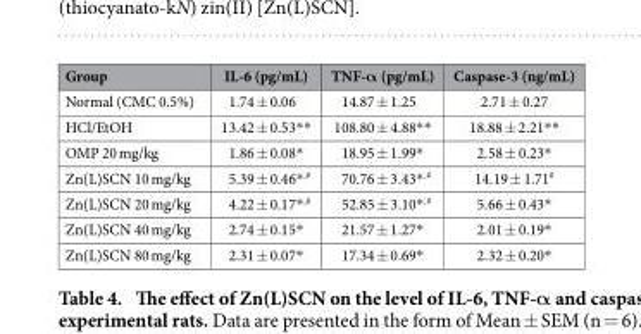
<table><thead><tr><td>Group</td><td>IL-6 (pg/mL)</td><td>TNF-α (pg/mL)</td><td>Caspase-3 (ng/mL)</td></tr></thead><tbody><tr><td>Normal (CMC 0.5%)</td><td>1.74 ± 0.06</td><td>14.87 ± 1.25</td><td>2.71 ± 0.27</td></tr><tr><td>HCl/EtOH</td><td>13.42 ± 0.53* *</td><td>108.80 ± 4.88* *</td><td>18.88 ± 2.21* *</td></tr><tr><td>OMP 20 mg/kg</td><td>1.86 ± 0.08*</td><td>18.95 ± 1.99*</td><td>2.58 ± 0.23*</td></tr><tr><td>Zn(L)SCN 10 mg/kg</td><td>5.39 ± 0.46*, #</td><td>70.76 ± 3.43* ,#</td><td>14.19 ± 1.71#</td></tr><tr><td>Zn(L)SCN 20 mg/kg</td><td>4.22 ± 0.17*, #</td><td>52.85 ± 3.10*, #</td><td>5.66 ± 0.43*</td></tr><tr><td>Zn(L)SCN 40 mg/kg</td><td>2.74 ± 0.15*</td><td>21.57 ± 1.27*</td><td>2.01 ± 0.19*</td></tr><tr><td>Zn(L)SCN 80 mg/kg</td><td>2.31 ± 0.07*</td><td>17.34 ± 0.69*</td><td>2.32 ± 0.20*</td></tr></tbody></table>